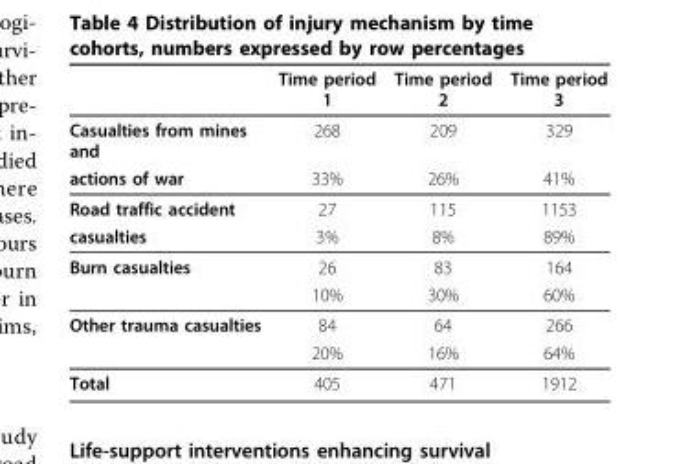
<table><thead><tr><td></td><td>Time period 1</td><td>Time period 2</td><td>Time period 3</td></tr></thead><tbody><tr><td>Casualties from mines and</td><td>268</td><td>209</td><td>329</td></tr><tr><td>actions of war</td><td>33%</td><td>26%</td><td>41%</td></tr><tr><td>Road traffic accident</td><td>27</td><td>115</td><td>1153</td></tr><tr><td>casualties</td><td>3%</td><td>8%</td><td>89%</td></tr><tr><td rowspan="2">Burn casualties</td><td>26</td><td>83</td><td>164</td></tr><tr><td>10%</td><td>30%</td><td>60%</td></tr><tr><td rowspan="2">Other trauma casualties</td><td>84</td><td>64</td><td>266</td></tr><tr><td>20%</td><td>16%</td><td>64%</td></tr><tr><td>Total</td><td>405</td><td>471</td><td>1912</td></tr></tbody></table>